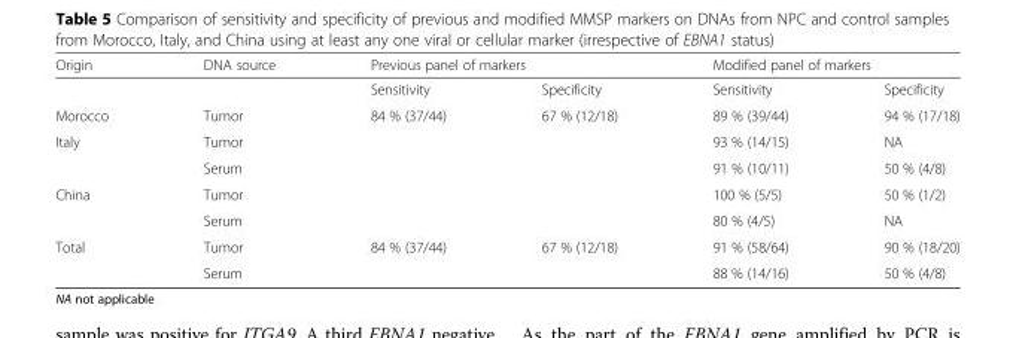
<table><thead><tr><td rowspan="2">Origin</td><td rowspan="2">DNA source</td><td colspan="2">Previous panel of markers</td><td colspan="2">Modified panel of markers</td></tr><tr><td>Sensitivity</td><td>Specificity</td><td>Sensitivity</td><td>Specificity</td></tr></thead><tbody><tr><td>Morocco</td><td>Tumor</td><td>84 % (37/44)</td><td>67 % (12/18)</td><td>89 % (39/44)</td><td>94 % (17/18)</td></tr><tr><td rowspan="2">Italy</td><td>Tumor</td><td></td><td></td><td>93 % (14/15)</td><td>NA</td></tr><tr><td>Serum</td><td></td><td></td><td>91 % (10/11)</td><td>50 % (4/8)</td></tr><tr><td rowspan="2">China</td><td>Tumor</td><td></td><td></td><td>100 % (5/5)</td><td>50 % (1/2)</td></tr><tr><td>Serum</td><td></td><td></td><td>80 % (4/5)</td><td>NA</td></tr><tr><td rowspan="2">Total</td><td>Tumor</td><td>84 % (37/44)</td><td>67 % (12/18)</td><td>91 % (58/64)</td><td>90 % (18/20)</td></tr><tr><td>Serum</td><td></td><td></td><td>88 % (14/16)</td><td>50 % (4/8)</td></tr></tbody></table>